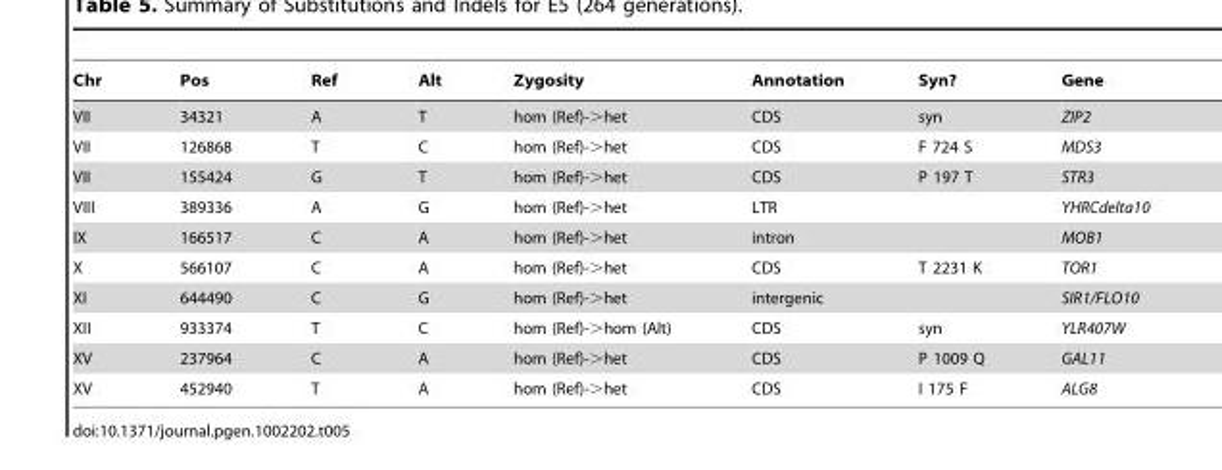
<table><thead><tr><td>Chr</td><td>Pos</td><td>Ref</td><td>Alt</td><td>Zygosity</td><td>Annotation</td><td>Syn?</td><td>Gene</td></tr></thead><tbody><tr><td>VII</td><td>34321</td><td>A</td><td>T</td><td>hom (Ref)-&gt;het</td><td>CDS</td><td>syn</td><td>ZIP2</td></tr><tr><td>VII</td><td>126868</td><td>T</td><td>C</td><td>hom (Ref)-&gt;het</td><td>CDS</td><td>F 724 S</td><td>MDS3</td></tr><tr><td>VII</td><td>155424</td><td>G</td><td>T</td><td>hom (Ref)-&gt;het</td><td>CDS</td><td>P 197 T</td><td>STR3</td></tr><tr><td>VIII</td><td>389336</td><td>A</td><td>G</td><td>hom (Ref)-&gt;het</td><td>LTR</td><td></td><td>YHRCdelta10</td></tr><tr><td>IX</td><td>166517</td><td>C</td><td>A</td><td>hom (Ref)-&gt;het</td><td>intron</td><td></td><td>MOB1</td></tr><tr><td>X</td><td>566107</td><td>C</td><td>A</td><td>hom (Ref)-&gt;het</td><td>CDS</td><td>T 2231 K</td><td>TOR1</td></tr><tr><td>XI</td><td>644490</td><td>C</td><td>G</td><td>hom (Ref)-&gt;het</td><td>intergenic</td><td></td><td>SIR1/FLO10</td></tr><tr><td>XII</td><td>933374</td><td>T</td><td>C</td><td>hom (Ref)-&gt;hom (Alt)</td><td>CDS</td><td>syn</td><td>YLR407W</td></tr><tr><td>XV</td><td>237964</td><td>C</td><td>A</td><td>hom (Ref)-&gt;het</td><td>CDS</td><td>P 1009 Q</td><td>GAL11</td></tr><tr><td>XV</td><td>452940</td><td>T</td><td>A</td><td>hom (Ref)-&gt;het</td><td>CDS</td><td>I 175 F</td><td>ALG8</td></tr></tbody></table>